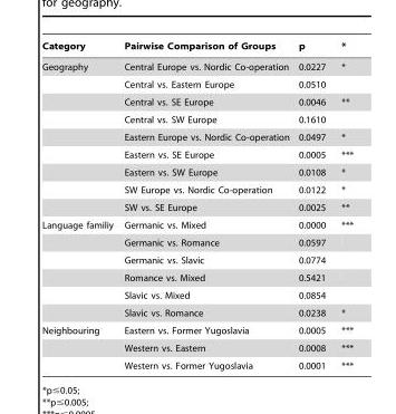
<table><thead><tr><td>Category</td><td>Pairwise Comparison of Groups</td><td>p</td><td>*</td></tr></thead><tbody><tr><td rowspan="9">Geography</td><td>Central Europe vs. Nordic Co-operation</td><td>0.0227</td><td>*</td></tr><tr><td>Central vs. Eastern Europe</td><td>0.0510</td><td></td></tr><tr><td>Central vs. SE Europe</td><td>0.0046</td><td>**</td></tr><tr><td>Central vs. SW Europe</td><td>0.1610</td><td></td></tr><tr><td>Eastern Europe vs. Nordic Co-operation</td><td>0.0497</td><td>*</td></tr><tr><td>Eastern vs. SE Europe</td><td>0.0005</td><td>***</td></tr><tr><td>Eastern vs. SW Europe</td><td>0.0108</td><td>*</td></tr><tr><td>SW Europe vs. Nordic Co-operation</td><td>0.0122</td><td>*</td></tr><tr><td>SW vs. SE Europe</td><td>0.0025</td><td>**</td></tr><tr><td rowspan="6">Language familiy</td><td>Germanic vs. Mixed</td><td>0.0000</td><td>***</td></tr><tr><td>Germanic vs. Romance</td><td>0.0597</td><td></td></tr><tr><td>Germanic vs. Slavic</td><td>0.0774</td><td></td></tr><tr><td>Romance vs. Mixed</td><td>0.5421</td><td></td></tr><tr><td>Slavic vs. Mixed</td><td>0.0854</td><td></td></tr><tr><td>Slavic vs. Romance</td><td>0.0238</td><td>*</td></tr><tr><td rowspan="3">Neighbouring</td><td>Eastern vs. Former Yugoslavia</td><td>0.0005</td><td>***</td></tr><tr><td>Western vs. Eastern</td><td>0.0008</td><td>***</td></tr><tr><td>Western vs. Former Yugoslavia</td><td>0.0001</td><td>***</td></tr></tbody></table>